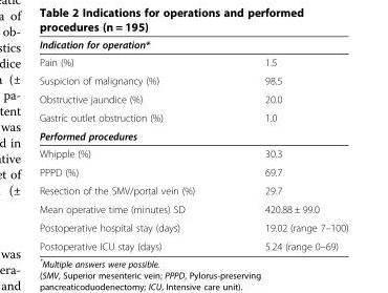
<table><thead><tr><td>Indication for operation*</td><td></td></tr></thead><tbody><tr><td>Pain (%)</td><td>1.5</td></tr><tr><td>Suspicion of malignancy (%)</td><td>98.5</td></tr><tr><td>Obstructive jaundice (%)</td><td>20.0</td></tr><tr><td>Gastric outlet obstruction (%)</td><td>1.0</td></tr><tr><td colspan="2">Performed procedures</td></tr><tr><td>Whipple (%)</td><td>30.3</td></tr><tr><td>PPPD (%)</td><td>69.7</td></tr><tr><td>Resection of the SMV/portal vein (%)</td><td>29.7</td></tr><tr><td>Mean operative time (minutes) SD</td><td>420.88 ± 99.0</td></tr><tr><td>Postoperative hospital stay (days)</td><td>19.02 (range 7–100)</td></tr><tr><td>Postoperative ICU stay (days)</td><td>5.24 (range 0–69)</td></tr></tbody></table>